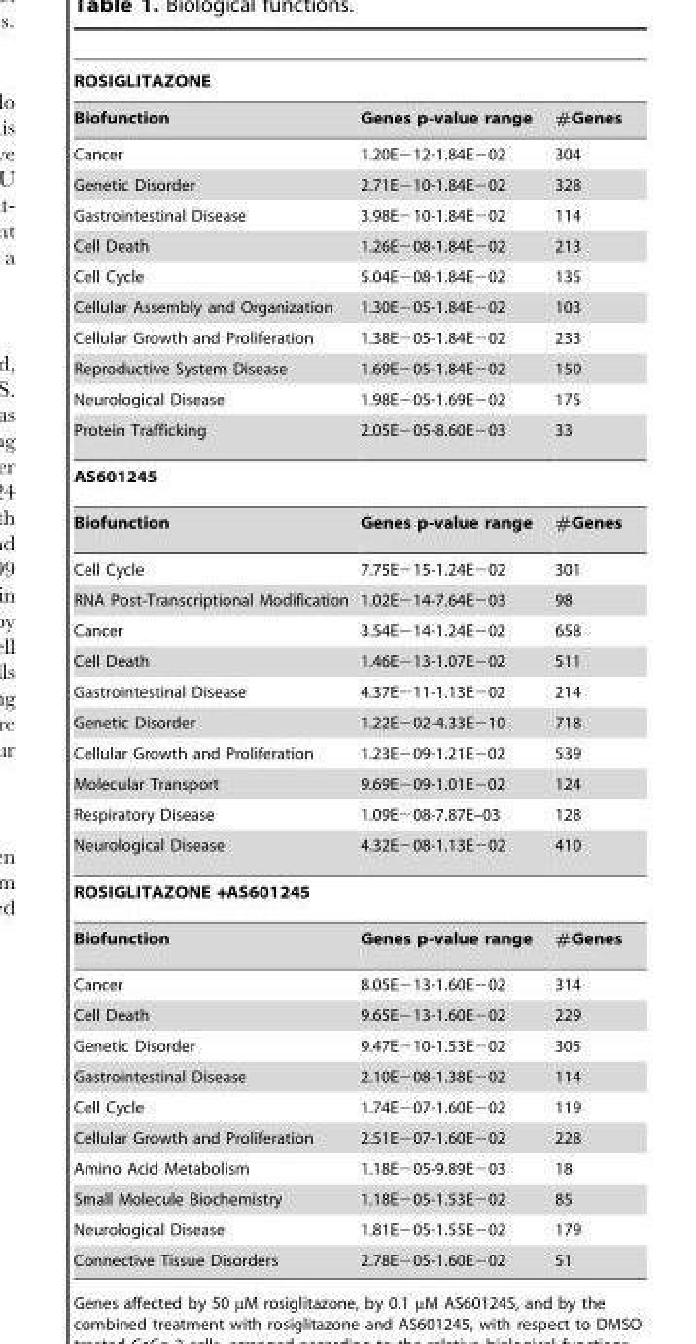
<table><thead><tr><td colspan="3">ROSIGLITAZONE</td></tr><tr><td>Biofunction</td><td>Genes p-value range</td><td>#Genes</td></tr></thead><tbody><tr><td>Cancer</td><td>1.20E−12-1.84E−02</td><td>304</td></tr><tr><td>Genetic Disorder</td><td>2.71E−10-1.84E−02</td><td>328</td></tr><tr><td>Gastrointestinal Disease</td><td>3.98E−10-1.84E−02</td><td>114</td></tr><tr><td>Cell Death</td><td>1.26E−08-1.84E−02</td><td>213</td></tr><tr><td>Cell Cycle</td><td>5.04E−08-1.84E−02</td><td>135</td></tr><tr><td>Cellular Assembly and Organization</td><td>1.30E−05-1.84E−02</td><td>103</td></tr><tr><td>Cellular Growth and Proliferation</td><td>1.38E−05-1.84E−02</td><td>233</td></tr><tr><td>Reproductive System Disease</td><td>1.69E−05-1.84E−02</td><td>150</td></tr><tr><td>Neurological Disease</td><td>1.98E−05-1.69E−02</td><td>175</td></tr><tr><td>Protein Trafficking</td><td>2.05E−05-8.60E−03</td><td>33</td></tr><tr><td colspan="3">AS601245</td></tr><tr><td>Biofunction</td><td>Genes p-value range</td><td>#Genes</td></tr><tr><td>Cell Cycle</td><td>7.75E−15-1.24E−02</td><td>301</td></tr><tr><td>RNA Post-Transcriptional Modification</td><td>1.02E−14-7.64E−03</td><td>98</td></tr><tr><td>Cancer</td><td>3.54E−14-1.24E−02</td><td>658</td></tr><tr><td>Cell Death</td><td>1.46E−13-1.07E−02</td><td>511</td></tr><tr><td>Gastrointestinal Disease</td><td>4.37E−11-1.13E−02</td><td>214</td></tr><tr><td>Genetic Disorder</td><td>1.22E−02-4.33E−10</td><td>718</td></tr><tr><td>Cellular Growth and Proliferation</td><td>1.23E−09-1.21E−02</td><td>539</td></tr><tr><td>Molecular Transport</td><td>9.69E−09-1.01E−02</td><td>124</td></tr><tr><td>Respiratory Disease</td><td>1.09E−08-7.87E–03</td><td>128</td></tr><tr><td>Neurological Disease</td><td>4.32E−08-1.13E−02</td><td>410</td></tr><tr><td colspan="3">ROSIGLITAZONE +AS601245</td></tr><tr><td>Biofunction</td><td>Genes p-value range</td><td>#Genes</td></tr><tr><td>Cancer</td><td>8.05E−13-1.60E−02</td><td>314</td></tr><tr><td>Cell Death</td><td>9.65E−13-1.60E−02</td><td>229</td></tr><tr><td>Genetic Disorder</td><td>9.47E−10-1.53E−02</td><td>305</td></tr><tr><td>Gastrointestinal Disease</td><td>2.10E−08-1.38E−02</td><td>114</td></tr><tr><td>Cell Cycle</td><td>1.74E−07-1.60E−02</td><td>119</td></tr><tr><td>Cellular Growth and Proliferation</td><td>2.51E−07-1.60E−02</td><td>228</td></tr><tr><td>Amino Acid Metabolism</td><td>1.18E−05-9.89E−03</td><td>18</td></tr><tr><td>Small Molecule Biochemistry</td><td>1.18E−05-1.53E−02</td><td>85</td></tr><tr><td>Neurological Disease</td><td>1.81E−05-1.55E−02</td><td>179</td></tr><tr><td>Connective Tissue Disorders</td><td>2.78E−05-1.60E−02</td><td>51</td></tr></tbody></table>